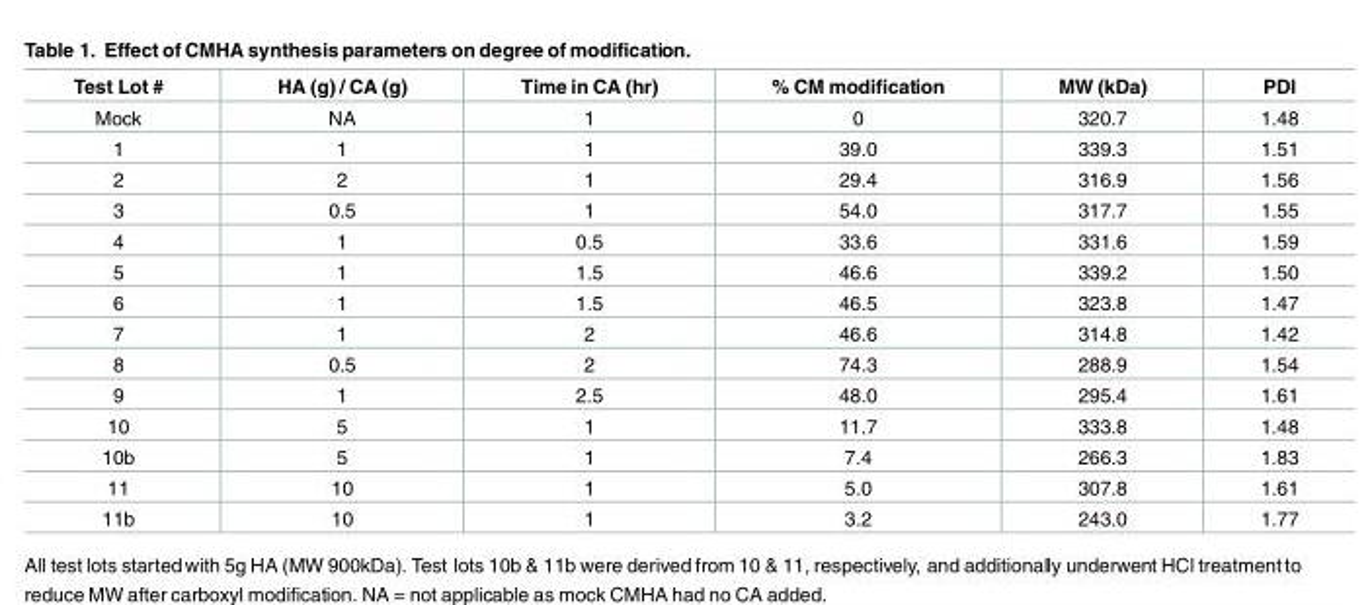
<table><thead><tr><td>Test Lot #</td><td>HA (g) / CA (g)</td><td>Time in CA (hr)</td><td>% CM modification</td><td>MW (kDa)</td><td>PDI</td></tr></thead><tbody><tr><td>Mock</td><td>NA</td><td>1</td><td>0</td><td>320.7</td><td>1.48</td></tr><tr><td>1</td><td>1</td><td>1</td><td>39.0</td><td>339.3</td><td>1.51</td></tr><tr><td>2</td><td>2</td><td>1</td><td>29.4</td><td>316.9</td><td>1.56</td></tr><tr><td>3</td><td>0.5</td><td>1</td><td>54.0</td><td>317.7</td><td>1.55</td></tr><tr><td>4</td><td>1</td><td>0.5</td><td>33.6</td><td>331.6</td><td>1.59</td></tr><tr><td>5</td><td>1</td><td>1.5</td><td>46.6</td><td>339.2</td><td>1.50</td></tr><tr><td>6</td><td>1</td><td>1.5</td><td>46.5</td><td>323.8</td><td>1.47</td></tr><tr><td>7</td><td>1</td><td>2</td><td>46.6</td><td>314.8</td><td>1.42</td></tr><tr><td>8</td><td>0.5</td><td>2</td><td>74.3</td><td>288.9</td><td>1.54</td></tr><tr><td>9</td><td>1</td><td>2.5</td><td>48.0</td><td>295.4</td><td>1.61</td></tr><tr><td>10</td><td>5</td><td>1</td><td>11.7</td><td>333.8</td><td>1.48</td></tr><tr><td>10b</td><td>5</td><td>1</td><td>7.4</td><td>266.3</td><td>1.83</td></tr><tr><td>11</td><td>10</td><td>1</td><td>5.0</td><td>307.8</td><td>1.61</td></tr><tr><td>11b</td><td>10</td><td>1</td><td>3.2</td><td>243.0</td><td>1.77</td></tr></tbody></table>